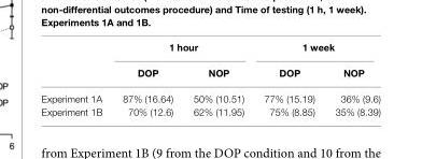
<table><thead><tr><td rowspan="2"></td><td colspan="2">1 hour</td><td colspan="2">1 week</td></tr><tr><td>DOP</td><td>NOP</td><td>DOP</td><td>NOP</td></tr></thead><tbody><tr><td>Experiment 1A</td><td>87% (16.64)</td><td>50% (10.51)</td><td>77% (15.19)</td><td>36% (9.6)</td></tr><tr><td>Experiment 1B</td><td>70% (12.6)</td><td>62% (11.95)</td><td>75% (8.85)</td><td>35% (8.39)</td></tr></tbody></table>